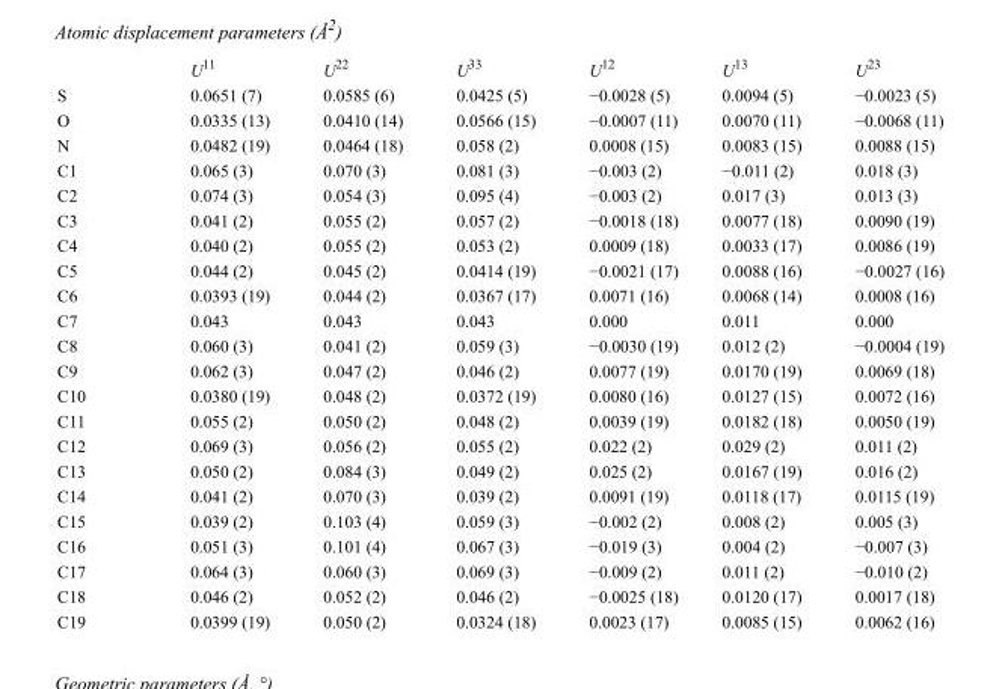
<table><thead><tr><td></td><td>U<sup>11</sup></td><td>U<sup>22</sup></td><td>U<sup>33</sup></td><td>U<sup>12</sup></td><td>U<sup>13</sup></td><td>U<sup>23</sup></td></tr></thead><tbody><tr><td>S</td><td>0.0651 (7)</td><td>0.0585 (6)</td><td>0.0425 (5)</td><td>−0.0028 (5)</td><td>0.0094 (5)</td><td>−0.0023 (5)</td></tr><tr><td>O</td><td>0.0335 (13)</td><td>0.0410 (14)</td><td>0.0566 (15)</td><td>−0.0007 (11)</td><td>0.0070 (11)</td><td>−0.0068 (11)</td></tr><tr><td>N</td><td>0.0482 (19)</td><td>0.0464 (18)</td><td>0.058 (2)</td><td>0.0008 (15)</td><td>0.0083 (15)</td><td>0.0088 (15)</td></tr><tr><td>C1</td><td>0.065 (3)</td><td>0.070 (3)</td><td>0.081 (3)</td><td>−0.003 (2)</td><td>−0.011 (2)</td><td>0.018 (3)</td></tr><tr><td>C2</td><td>0.074 (3)</td><td>0.054 (3)</td><td>0.095 (4)</td><td>−0.003 (2)</td><td>0.017 (3)</td><td>0.013 (3)</td></tr><tr><td>C3</td><td>0.041 (2)</td><td>0.055 (2)</td><td>0.057 (2)</td><td>−0.0018 (18)</td><td>0.0077 (18)</td><td>0.0090 (19)</td></tr><tr><td>C4</td><td>0.040 (2)</td><td>0.055 (2)</td><td>0.053 (2)</td><td>0.0009 (18)</td><td>0.0033 (17)</td><td>0.0086 (19)</td></tr><tr><td>C5</td><td>0.044 (2)</td><td>0.045 (2)</td><td>0.0414 (19)</td><td>−0.0021 (17)</td><td>0.0088 (16)</td><td>−0.0027 (16)</td></tr><tr><td>C6</td><td>0.0393 (19)</td><td>0.044 (2)</td><td>0.0367 (17)</td><td>0.0071 (16)</td><td>0.0068 (14)</td><td>0.0008 (16)</td></tr><tr><td>C7</td><td>0.043</td><td>0.043</td><td>0.043</td><td>0.000</td><td>0.011</td><td>0.000</td></tr><tr><td>C8</td><td>0.060 (3)</td><td>0.041 (2)</td><td>0.059 (3)</td><td>−0.0030 (19)</td><td>0.012 (2)</td><td>−0.0004 (19)</td></tr><tr><td>C9</td><td>0.062 (3)</td><td>0.047 (2)</td><td>0.046 (2)</td><td>0.0077 (19)</td><td>0.0170 (19)</td><td>0.0069 (18)</td></tr><tr><td>C10</td><td>0.0380 (19)</td><td>0.048 (2)</td><td>0.0372 (19)</td><td>0.0080 (16)</td><td>0.0127 (15)</td><td>0.0072 (16)</td></tr><tr><td>C11</td><td>0.055 (2)</td><td>0.050 (2)</td><td>0.048 (2)</td><td>0.0039 (19)</td><td>0.0182 (18)</td><td>0.0050 (19)</td></tr><tr><td>C12</td><td>0.069 (3)</td><td>0.056 (2)</td><td>0.055 (2)</td><td>0.022 (2)</td><td>0.029 (2)</td><td>0.011 (2)</td></tr><tr><td>C13</td><td>0.050 (2)</td><td>0.084 (3)</td><td>0.049 (2)</td><td>0.025 (2)</td><td>0.0167 (19)</td><td>0.016 (2)</td></tr><tr><td>C14</td><td>0.041 (2)</td><td>0.070 (3)</td><td>0.039 (2)</td><td>0.0091 (19)</td><td>0.0118 (17)</td><td>0.0115 (19)</td></tr><tr><td>C15</td><td>0.039 (2)</td><td>0.103 (4)</td><td>0.059 (3)</td><td>−0.002 (2)</td><td>0.008 (2)</td><td>0.005 (3)</td></tr><tr><td>C16</td><td>0.051 (3)</td><td>0.101 (4)</td><td>0.067 (3)</td><td>−0.019 (3)</td><td>0.004 (2)</td><td>−0.007 (3)</td></tr><tr><td>C17</td><td>0.064 (3)</td><td>0.060 (3)</td><td>0.069 (3)</td><td>−0.009 (2)</td><td>0.011 (2)</td><td>−0.010 (2)</td></tr><tr><td>C18</td><td>0.046 (2)</td><td>0.052 (2)</td><td>0.046 (2)</td><td>−0.0025 (18)</td><td>0.0120 (17)</td><td>0.0017 (18)</td></tr><tr><td>C19</td><td>0.0399 (19)</td><td>0.050 (2)</td><td>0.0324 (18)</td><td>0.0023 (17)</td><td>0.0085 (15)</td><td>0.0062 (16)</td></tr></tbody></table>